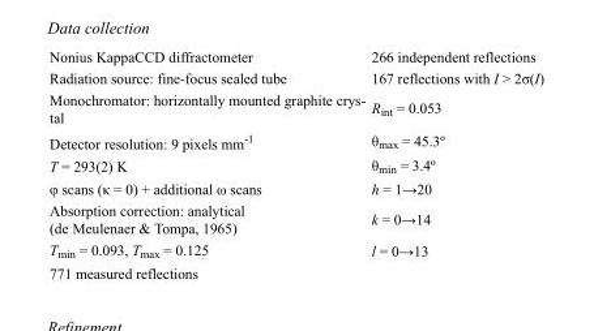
<table><tbody><tr><td>Nonius KappaCCD diffractometer</td><td>266 independent reflections</td></tr><tr><td>Radiation source: fine-focus sealed tube</td><td>167 reflections with I &gt; 2σ(I)</td></tr><tr><td>Monochromator: horizontally mounted graphite crys- tal</td><td>R<sub>int</sub> = 0.053</td></tr><tr><td>Detector resolution: 9 pixels mm<sup>-1</sup></td><td>θ<sub>max</sub> = 45.3º</td></tr><tr><td>T = 293(2) K</td><td>θ<sub>min</sub> = 3.4º</td></tr><tr><td>φ scans (κ = 0) + additional ω scans</td><td>h = 1→20</td></tr><tr><td>Absorption correction: analytical (de Meulenaer &amp; Tompa, 1965)</td><td>k = 0→14</td></tr><tr><td>T<sub>min</sub> = 0.093, T<sub>max</sub> = 0.125</td><td>l = 0→13</td></tr><tr><td>771 measured reflections</td><td></td></tr></tbody></table>